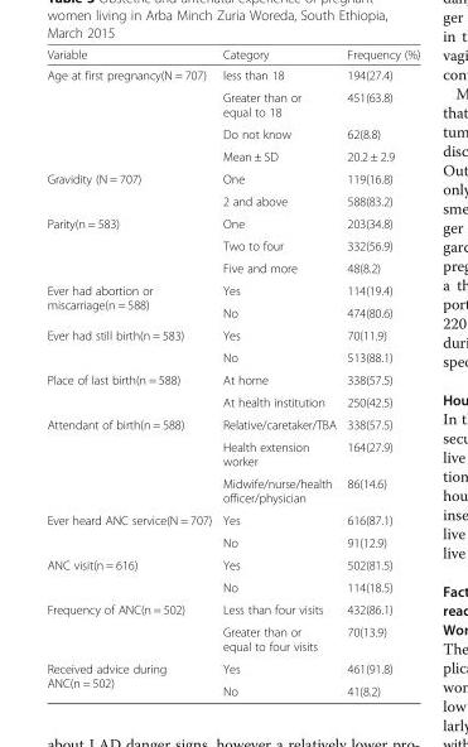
<table><thead><tr><td>Variable</td><td>Category</td><td>Frequency (%)</td></tr></thead><tbody><tr><td rowspan="4">Age at first pregnancy(N = 707)</td><td>less than 18</td><td>194(27.4)</td></tr><tr><td>Greater than or equal to 18</td><td>451(63.8)</td></tr><tr><td>Do not know</td><td>62(8.8)</td></tr><tr><td>Mean ± SD</td><td>20.2 ± 2.9</td></tr><tr><td rowspan="2">Gravidity (N = 707)</td><td>One</td><td>119(16.8)</td></tr><tr><td>2 and above</td><td>588(83.2)</td></tr><tr><td rowspan="3">Parity(n = 583)</td><td>One</td><td>203(34.8)</td></tr><tr><td>Two to four</td><td>332(56.9)</td></tr><tr><td>Five and more</td><td>48(8.2)</td></tr><tr><td rowspan="2">Ever had abortion or miscarriage(n = 588)</td><td>Yes</td><td>114(19.4)</td></tr><tr><td>No</td><td>474(80.6)</td></tr><tr><td rowspan="2">Ever had still birth(n = 583)</td><td>Yes</td><td>70(11.9)</td></tr><tr><td>No</td><td>513(88.1)</td></tr><tr><td rowspan="2">Place of last birth(n = 588)</td><td>At home</td><td>338(57.5)</td></tr><tr><td>At health institution</td><td>250(42.5)</td></tr><tr><td rowspan="3">Attendant of birth(n = 588)</td><td>Relative/caretaker/TBA</td><td>338(57.5)</td></tr><tr><td>Health extension worker</td><td>164(27.9)</td></tr><tr><td>Midwife/nurse/health officer/physician</td><td>86(14.6)</td></tr><tr><td rowspan="2">Ever heard ANC service(N = 707)</td><td>Yes</td><td>616(87.1)</td></tr><tr><td>No</td><td>91(12.9)</td></tr><tr><td rowspan="2">ANC visit(n = 616)</td><td>Yes</td><td>502(81.5)</td></tr><tr><td>No</td><td>114(18.5)</td></tr><tr><td rowspan="2">Frequency of ANC(n = 502)</td><td>Less than four visits</td><td>432(86.1)</td></tr><tr><td>Greater than or equal to four visits</td><td>70(13.9)</td></tr><tr><td rowspan="2">Received advice during ANC(n = 502)</td><td>Yes</td><td>461(91.8)</td></tr><tr><td>No</td><td>41(8.2)</td></tr></tbody></table>